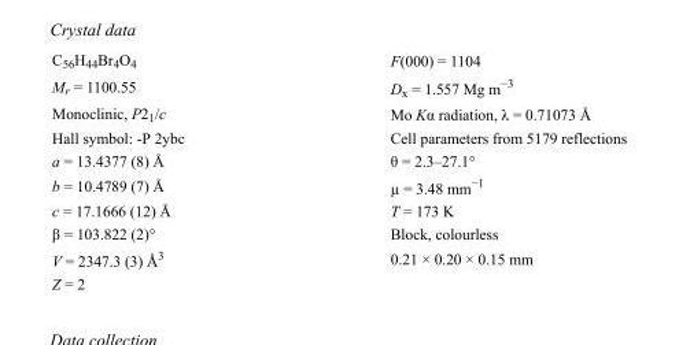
<table><tbody><tr><td>C<sub>56</sub>H<sub>44</sub>Br<sub>4</sub>O<sub>4</sub></td><td>F(000) = 1104</td></tr><tr><td>M<sub>r</sub> = 1100.55</td><td>D<sub>x</sub> = 1.557 Mg m<sup>−3</sup></td></tr><tr><td>Monoclinic, P2<sub>1</sub>/c</td><td>Mo Kα radiation, λ = 0.71073 Å</td></tr><tr><td>Hall symbol: -P 2ybc</td><td>Cell parameters from 5179 reflections</td></tr><tr><td>a = 13.4377 (8) Å</td><td>θ = 2.3–27.1°</td></tr><tr><td>b = 10.4789 (7) Å</td><td>µ = 3.48 mm<sup>−1</sup></td></tr><tr><td>c = 17.1666 (12) Å</td><td>T = 173 K</td></tr><tr><td>β = 103.822 (2)°</td><td>Block, colourless</td></tr><tr><td>V = 2347.3 (3) Å<sup>3</sup></td><td>0.21 × 0.20 × 0.15 mm</td></tr><tr><td>Z = 2</td><td></td></tr></tbody></table>